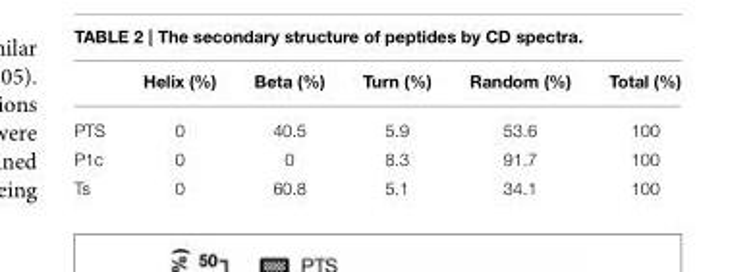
<table><thead><tr><td></td><td>Helix (%)</td><td>Beta (%)</td><td>Turn (%)</td><td>Random (%)</td><td>Total (%)</td></tr></thead><tbody><tr><td>PTS</td><td>0</td><td>40.5</td><td>5.9</td><td>53.6</td><td>100</td></tr><tr><td>P1c</td><td>0</td><td>0</td><td>8.3</td><td>91.7</td><td>100</td></tr><tr><td>Ts</td><td>0</td><td>60.8</td><td>5.1</td><td>34.1</td><td>100</td></tr></tbody></table>